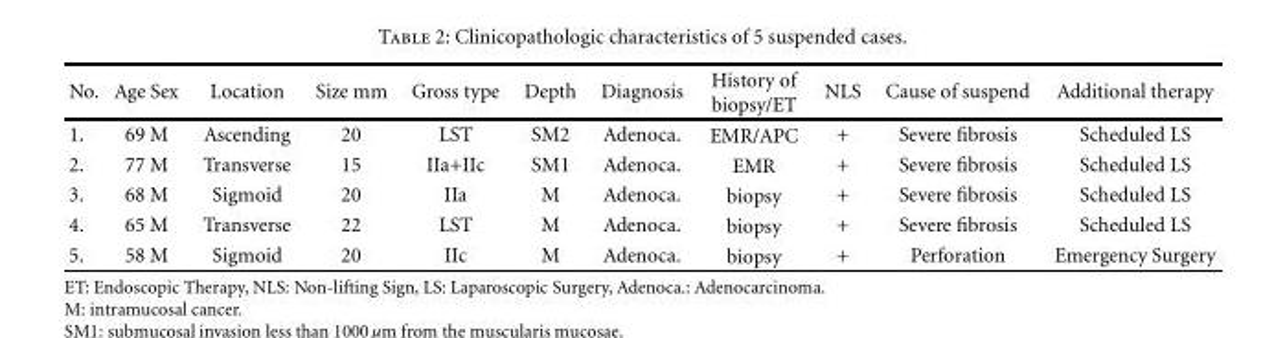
<table><thead><tr><td>No.</td><td>Age Sex</td><td>Location</td><td>Size mm</td><td>Gross type</td><td>Depth</td><td>Diagnosis</td><td>History of biopsy/ET</td><td>NLS</td><td>Cause of suspend</td><td>Additional therapy</td></tr></thead><tbody><tr><td>1.</td><td>69 M</td><td>Ascending</td><td>20</td><td>LST</td><td>SM2</td><td>Adenoca.</td><td>EMR/APC</td><td>+</td><td>Severe fibrosis</td><td>Scheduled LS</td></tr><tr><td>2.</td><td>77 M</td><td>Transverse</td><td>15</td><td>IIa+IIc</td><td>SM1</td><td>Adenoca.</td><td>EMR</td><td>+</td><td>Severe fibrosis</td><td>Scheduled LS</td></tr><tr><td>3.</td><td>68 M</td><td>Sigmoid</td><td>20</td><td>IIa</td><td>M</td><td>Adenoca.</td><td>biopsy</td><td>+</td><td>Severe fibrosis</td><td>Scheduled LS</td></tr><tr><td>4.</td><td>65 M</td><td>Transverse</td><td>22</td><td>LST</td><td>M</td><td>Adenoca.</td><td>biopsy</td><td>+</td><td>Severe fibrosis</td><td>Scheduled LS</td></tr><tr><td>5.</td><td>58 M</td><td>Sigmoid</td><td>20</td><td>IIc</td><td>M</td><td>Adenoca.</td><td>biopsy</td><td>+</td><td>Perforation</td><td>Emergency Surgery</td></tr></tbody></table>